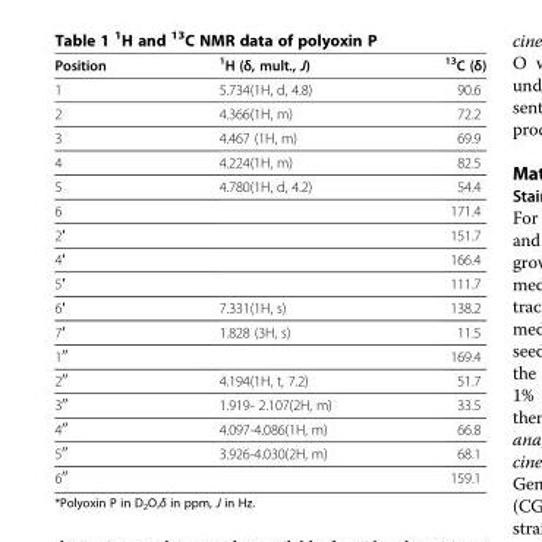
<table><thead><tr><td>Position</td><td><sup>1</sup>H (δ, mult., J)</td><td><sup>13</sup>C (δ)</td></tr></thead><tbody><tr><td>1</td><td>5.734(1H, d, 4.8)</td><td>90.6</td></tr><tr><td>2</td><td>4.366(1H, m)</td><td>72.2</td></tr><tr><td>3</td><td>4.467 (1H, m)</td><td>69.9</td></tr><tr><td>4</td><td>4.224(1H, m)</td><td>82.5</td></tr><tr><td>5</td><td>4.780(1H, d, 4.2)</td><td>54.4</td></tr><tr><td>6</td><td></td><td>171.4</td></tr><tr><td>2′</td><td></td><td>151.7</td></tr><tr><td>4′</td><td></td><td>166.4</td></tr><tr><td>5′</td><td></td><td>111.7</td></tr><tr><td>6′</td><td>7.331(1H, s)</td><td>138.2</td></tr><tr><td>7′</td><td>1.828 (3H, s)</td><td>11.5</td></tr><tr><td>100</td><td></td><td>169.4</td></tr><tr><td>200</td><td>4.194(1H, t, 7.2)</td><td>51.7</td></tr><tr><td>300</td><td>1.919- 2.107(2H, m)</td><td>33.5</td></tr><tr><td>400</td><td>4.097-4.086(1H, m)</td><td>66.8</td></tr><tr><td>500</td><td>3.926-4.030(2H, m)</td><td>68.1</td></tr><tr><td>600</td><td></td><td>159.1</td></tr></tbody></table>